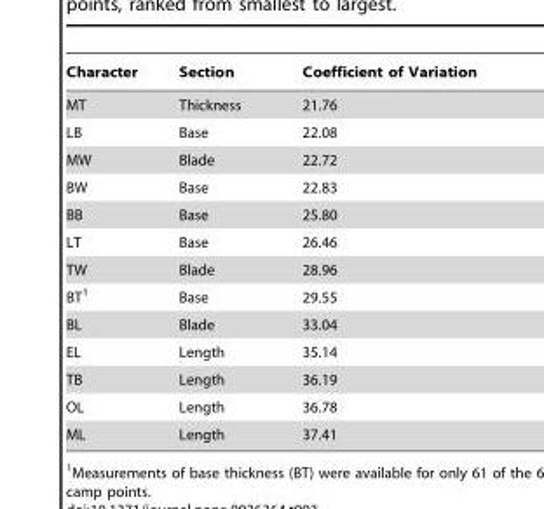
<table><thead><tr><td>Character</td><td>Section</td><td>Coefficient of Variation</td></tr></thead><tbody><tr><td>MT</td><td>Thickness</td><td>21.76</td></tr><tr><td>LB</td><td>Base</td><td>22.08</td></tr><tr><td>MW</td><td>Blade</td><td>22.72</td></tr><tr><td>BW</td><td>Base</td><td>22.83</td></tr><tr><td>BB</td><td>Base</td><td>25.80</td></tr><tr><td>LT</td><td>Base</td><td>26.46</td></tr><tr><td>TW</td><td>Blade</td><td>28.96</td></tr><tr><td>BT<sup>1</sup></td><td>Base</td><td>29.55</td></tr><tr><td>BL</td><td>Blade</td><td>33.04</td></tr><tr><td>EL</td><td>Length</td><td>35.14</td></tr><tr><td>TB</td><td>Length</td><td>36.19</td></tr><tr><td>OL</td><td>Length</td><td>36.78</td></tr><tr><td>ML</td><td>Length</td><td>37.41</td></tr></tbody></table>